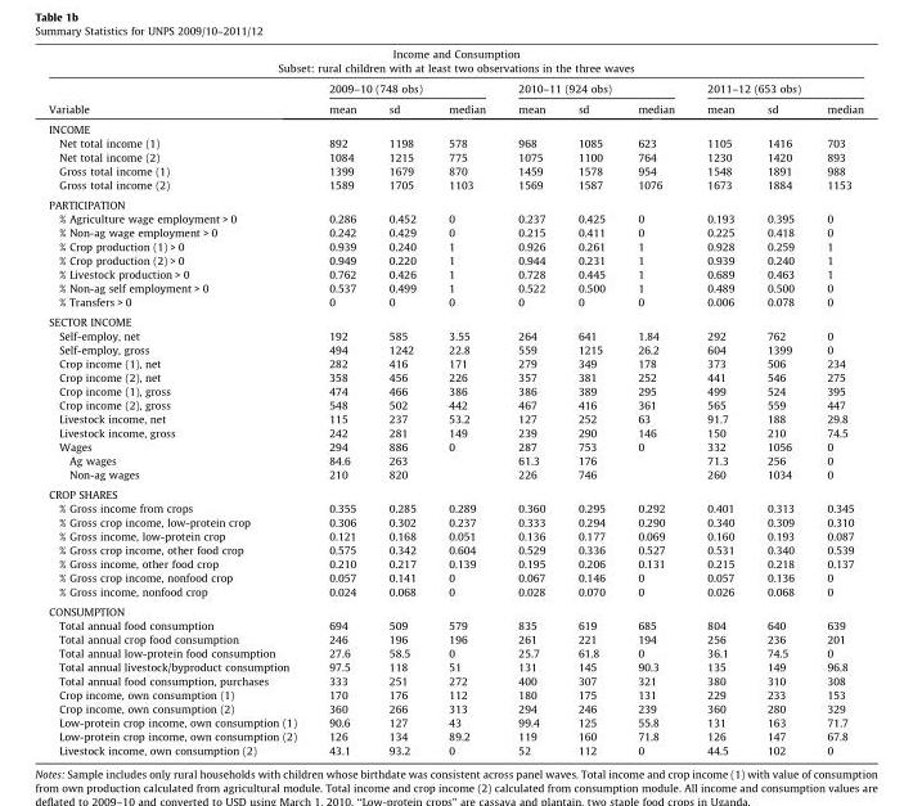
<table><thead><tr><td colspan="10">Income and Consumption Subset: rural children with at least two observations in the three waves</td></tr><tr><td rowspan="2">Variable</td><td colspan="3">2009–10 (748 obs)</td><td colspan="3">2010–11 (924 obs)</td><td colspan="3">2011–12 (653 obs)</td></tr><tr><td>mean</td><td>sd</td><td>median</td><td>mean</td><td>sd</td><td>median</td><td>mean</td><td>sd</td><td>median</td></tr></thead><tbody><tr><td colspan="10">INCOME</td></tr><tr><td>Net total income (1)</td><td>892</td><td>1198</td><td>578</td><td>968</td><td>1085</td><td>623</td><td>1105</td><td>1416</td><td>703</td></tr><tr><td>Net total income (2)</td><td>1084</td><td>1215</td><td>775</td><td>1075</td><td>1100</td><td>764</td><td>1230</td><td>1420</td><td>893</td></tr><tr><td>Gross total income (1)</td><td>1399</td><td>1679</td><td>870</td><td>1459</td><td>1578</td><td>954</td><td>1548</td><td>1891</td><td>988</td></tr><tr><td>Gross total income (2)</td><td>1589</td><td>1705</td><td>1103</td><td>1569</td><td>1587</td><td>1076</td><td>1673</td><td>1884</td><td>1153</td></tr><tr><td colspan="10">PARTICIPATION</td></tr><tr><td>% Agriculture wage employment &gt; 0</td><td>0.286</td><td>0.452</td><td>0</td><td>0.237</td><td>0.425</td><td>0</td><td>0.193</td><td>0.395</td><td>0</td></tr><tr><td>% Non-ag wage employment &gt; 0</td><td>0.242</td><td>0.429</td><td>0</td><td>0.215</td><td>0.411</td><td>0</td><td>0.225</td><td>0.418</td><td>0</td></tr><tr><td>% Crop production (1) &gt; 0</td><td>0.939</td><td>0.240</td><td>1</td><td>0.926</td><td>0.261</td><td>1</td><td>0.928</td><td>0.259</td><td>1</td></tr><tr><td>% Crop production (2) &gt; 0</td><td>0.949</td><td>0.220</td><td>1</td><td>0.944</td><td>0.231</td><td>1</td><td>0.939</td><td>0.240</td><td>1</td></tr><tr><td>% Livestock production &gt; 0</td><td>0.762</td><td>0.426</td><td>1</td><td>0.728</td><td>0.445</td><td>1</td><td>0.689</td><td>0.463</td><td>1</td></tr><tr><td>% Non-ag self employment &gt; 0</td><td>0.537</td><td>0.499</td><td>1</td><td>0.522</td><td>0.500</td><td>1</td><td>0.489</td><td>0.500</td><td>0</td></tr><tr><td>% Transfers &gt; 0</td><td>0</td><td>0</td><td>0</td><td>0</td><td>0</td><td>0</td><td>0.006</td><td>0.078</td><td>0</td></tr><tr><td colspan="10">SECTOR INCOME</td></tr><tr><td>Self-employ, net</td><td>192</td><td>585</td><td>3.55</td><td>264</td><td>641</td><td>1.84</td><td>292</td><td>762</td><td>0</td></tr><tr><td>Self-employ, gross</td><td>494</td><td>1242</td><td>22.8</td><td>559</td><td>1215</td><td>26.2</td><td>604</td><td>1399</td><td>0</td></tr><tr><td>Crop income (1), net</td><td>282</td><td>416</td><td>171</td><td>279</td><td>349</td><td>178</td><td>373</td><td>506</td><td>234</td></tr><tr><td>Crop income (2), net</td><td>358</td><td>456</td><td>226</td><td>357</td><td>381</td><td>252</td><td>441</td><td>546</td><td>275</td></tr><tr><td>Crop income (1), gross</td><td>474</td><td>466</td><td>386</td><td>386</td><td>389</td><td>295</td><td>499</td><td>524</td><td>395</td></tr><tr><td>Crop income (2), gross</td><td>548</td><td>502</td><td>442</td><td>467</td><td>416</td><td>361</td><td>565</td><td>559</td><td>447</td></tr><tr><td>Livestock income, net</td><td>115</td><td>237</td><td>53.2</td><td>127</td><td>252</td><td>63</td><td>91.7</td><td>188</td><td>29.8</td></tr><tr><td>Livestock income, gross</td><td>242</td><td>281</td><td>149</td><td>239</td><td>290</td><td>146</td><td>150</td><td>210</td><td>74.5</td></tr><tr><td>Wages</td><td>294</td><td>886</td><td>0</td><td>287</td><td>753</td><td>0</td><td>332</td><td>1056</td><td>0</td></tr><tr><td>Ag wages</td><td>84.6</td><td>263</td><td></td><td>61.3</td><td>176</td><td></td><td>71.3</td><td>256</td><td>0</td></tr><tr><td>Non-ag wages</td><td>210</td><td>820</td><td></td><td>226</td><td>746</td><td></td><td>260</td><td>1034</td><td>0</td></tr><tr><td colspan="10">CROP SHARES</td></tr><tr><td>% Gross income from crops</td><td>0.355</td><td>0.285</td><td>0.289</td><td>0.360</td><td>0.295</td><td>0.292</td><td>0.401</td><td>0.313</td><td>0.345</td></tr><tr><td>% Gross crop income, low-protein crop</td><td>0.306</td><td>0.302</td><td>0.237</td><td>0.333</td><td>0.294</td><td>0.290</td><td>0.340</td><td>0.309</td><td>0.310</td></tr><tr><td>% Gross income, low-protein crop</td><td>0.121</td><td>0.168</td><td>0.051</td><td>0.136</td><td>0.177</td><td>0.069</td><td>0.160</td><td>0.193</td><td>0.087</td></tr><tr><td>% Gross crop income, other food crop</td><td>0.575</td><td>0.342</td><td>0.604</td><td>0.529</td><td>0.336</td><td>0.527</td><td>0.531</td><td>0.340</td><td>0.539</td></tr><tr><td>% Gross income, other food crop</td><td>0.210</td><td>0.217</td><td>0.139</td><td>0.195</td><td>0.206</td><td>0.131</td><td>0.215</td><td>0.218</td><td>0.137</td></tr><tr><td>% Gross crop income, nonfood crop</td><td>0.057</td><td>0.141</td><td>0</td><td>0.067</td><td>0.146</td><td>0</td><td>0.057</td><td>0.136</td><td>0</td></tr><tr><td>% Gross income, nonfood crop</td><td>0.024</td><td>0.068</td><td>0</td><td>0.028</td><td>0.070</td><td>0</td><td>0.026</td><td>0.068</td><td>0</td></tr><tr><td colspan="10">CONSUMPTION</td></tr><tr><td>Total annual food consumption</td><td>694</td><td>509</td><td>579</td><td>835</td><td>619</td><td>685</td><td>804</td><td>640</td><td>639</td></tr><tr><td>Total annual crop food consumption</td><td>246</td><td>196</td><td>196</td><td>261</td><td>221</td><td>194</td><td>256</td><td>236</td><td>201</td></tr><tr><td>Total annual low-protein food consumption</td><td>27.6</td><td>58.5</td><td>0</td><td>25.7</td><td>61.8</td><td>0</td><td>36.1</td><td>74.5</td><td>0</td></tr><tr><td>Total annual livestock/byproduct consumption</td><td>97.5</td><td>118</td><td>51</td><td>131</td><td>145</td><td>90.3</td><td>135</td><td>149</td><td>96.8</td></tr><tr><td>Total annual food consumption, purchases</td><td>333</td><td>251</td><td>272</td><td>400</td><td>307</td><td>321</td><td>380</td><td>310</td><td>308</td></tr><tr><td>Crop income, own consumption (1)</td><td>170</td><td>176</td><td>112</td><td>180</td><td>175</td><td>131</td><td>229</td><td>233</td><td>153</td></tr><tr><td>Crop income, own consumption (2)</td><td>360</td><td>266</td><td>313</td><td>294</td><td>246</td><td>239</td><td>360</td><td>280</td><td>329</td></tr><tr><td>Low-protein crop income, own consumption (1)</td><td>90.6</td><td>127</td><td>43</td><td>99.4</td><td>125</td><td>55.8</td><td>131</td><td>163</td><td>71.7</td></tr><tr><td>Low-protein crop income, own consumption (2)</td><td>126</td><td>134</td><td>89.2</td><td>119</td><td>160</td><td>71.8</td><td>126</td><td>147</td><td>67.8</td></tr><tr><td>Livestock income, own consumption (2)</td><td>43.1</td><td>93.2</td><td>0</td><td>52</td><td>112</td><td>0</td><td>44.5</td><td>102</td><td>0</td></tr></tbody></table>